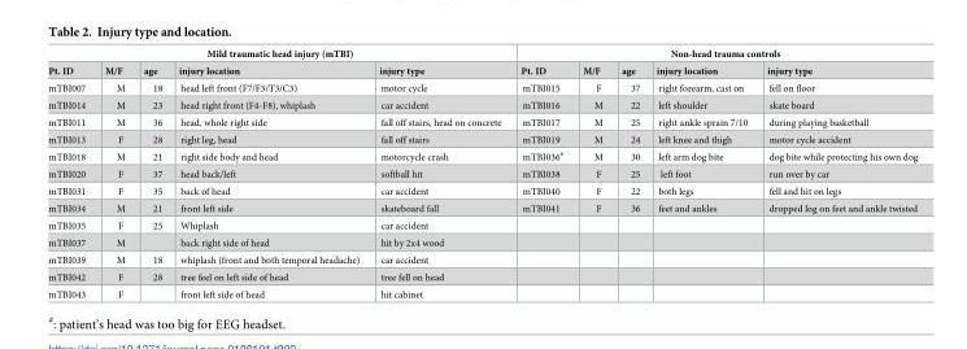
<table><thead><tr><td colspan="5">Mild traumatic head injury (mTBI)</td><td colspan="5">Non-head trauma controls</td></tr><tr><td>Pt. ID</td><td>M/F</td><td>age</td><td>injury location</td><td>injury type</td><td>Pt. ID</td><td>M/F</td><td>age</td><td>injury location</td><td>injury type</td></tr></thead><tbody><tr><td>mTBI007</td><td>M</td><td>18</td><td>head left front (F7/F3/T3/C3)</td><td>motor cycle</td><td>mTBI015</td><td>F</td><td>37</td><td>right forearm, cast on</td><td>fell on floor</td></tr><tr><td>mTBI014</td><td>M</td><td>23</td><td>head right front (F4-F8), whiplash</td><td>car accident</td><td>mTBI016</td><td>M</td><td>22</td><td>left shoulder</td><td>skate board</td></tr><tr><td>mTBI011</td><td>M</td><td>36</td><td>head, whole right side</td><td>fall off stairs, head on concrete</td><td>mTBI017</td><td>M</td><td>25</td><td>right ankle sprain 7/10</td><td>during playing basketball</td></tr><tr><td>mTBI013</td><td>F</td><td>28</td><td>right leg, head</td><td>fall off stairs</td><td>mTBI019</td><td>M</td><td>24</td><td>left knee and thigh</td><td>motor cycle accident</td></tr><tr><td>mTBI018</td><td>M</td><td>21</td><td>right side body and head</td><td>motorcycle crash</td><td>mTBI036<sup>#</sup></td><td>M</td><td>30</td><td>left arm dog bite</td><td>dog bite while protecting his own dog</td></tr><tr><td>mTBI020</td><td>F</td><td>37</td><td>head back/left</td><td>softball hit</td><td>mTBI038</td><td>F</td><td>25</td><td>left foot</td><td>run over by car</td></tr><tr><td>mTBI031</td><td>F</td><td>35</td><td>back of head</td><td>car accident</td><td>mTBI040</td><td>F</td><td>22</td><td>both legs</td><td>fell and hit on legs</td></tr><tr><td>mTBI034</td><td>M</td><td>21</td><td>front left side</td><td>skateboard fall</td><td>mTBI041</td><td>F</td><td>36</td><td>feet and ankles</td><td>dropped log on feet and ankle twisted</td></tr><tr><td>mTBI035</td><td>F</td><td>25</td><td>Whiplash</td><td>car accident</td><td></td><td></td><td></td><td></td><td></td></tr><tr><td>mTBI037</td><td>M</td><td></td><td>back right side of head</td><td>hit by 2x4 wood</td><td></td><td></td><td></td><td></td><td></td></tr><tr><td>mTBI039</td><td>M</td><td>18</td><td>whiplash (front and both temporal headache)</td><td>car accident</td><td></td><td></td><td></td><td></td><td></td></tr><tr><td>mTBI042</td><td>F</td><td>28</td><td>tree feel on left side of head</td><td>tree fell on head</td><td></td><td></td><td></td><td></td><td></td></tr><tr><td>mTBI043</td><td>F</td><td></td><td>front left side of head</td><td>hit cabinet</td><td></td><td></td><td></td><td></td><td></td></tr></tbody></table>